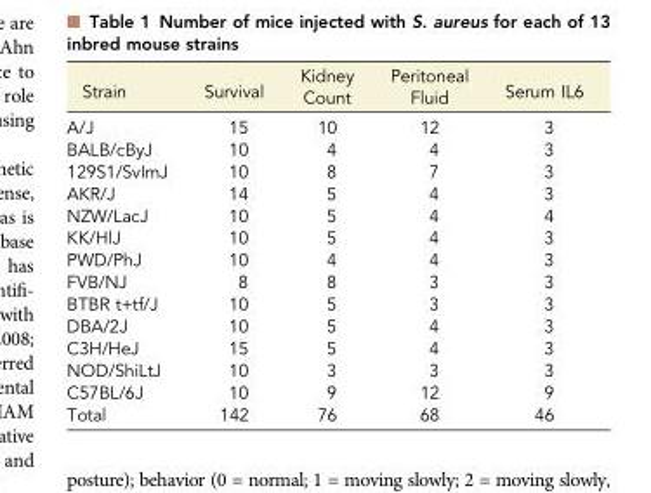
<table><thead><tr><td>Strain</td><td>Survival</td><td>Kidney Count</td><td>Peritoneal Fluid</td><td>Serum IL6</td></tr></thead><tbody><tr><td>A/J</td><td>15</td><td>10</td><td>12</td><td>3</td></tr><tr><td>BALB/cByJ</td><td>10</td><td>4</td><td>4</td><td>3</td></tr><tr><td>129S1/SvImJ</td><td>10</td><td>8</td><td>7</td><td>3</td></tr><tr><td>AKR/J</td><td>14</td><td>5</td><td>4</td><td>3</td></tr><tr><td>NZW/LacJ</td><td>10</td><td>5</td><td>4</td><td>4</td></tr><tr><td>KK/HlJ</td><td>10</td><td>5</td><td>4</td><td>3</td></tr><tr><td>PWD/PhJ</td><td>10</td><td>4</td><td>4</td><td>3</td></tr><tr><td>FVB/NJ</td><td>8</td><td>8</td><td>3</td><td>3</td></tr><tr><td>BTBR t+tf/J</td><td>10</td><td>5</td><td>3</td><td>3</td></tr><tr><td>DBA/2J</td><td>10</td><td>5</td><td>4</td><td>3</td></tr><tr><td>C3H/HeJ</td><td>15</td><td>5</td><td>4</td><td>3</td></tr><tr><td>NOD/ShiLtJ</td><td>10</td><td>3</td><td>3</td><td>3</td></tr><tr><td>C57BL/6J</td><td>10</td><td>9</td><td>12</td><td>9</td></tr><tr><td>Total</td><td>142</td><td>76</td><td>68</td><td>46</td></tr></tbody></table>